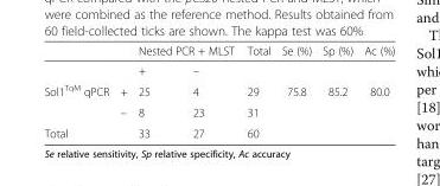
<table><thead><tr><td rowspan="2"></td><td rowspan="2"></td><td colspan="2">Nested PCR + MLST</td><td rowspan="2">Total</td><td rowspan="2">Se (%)</td><td rowspan="2">Sp (%)</td><td rowspan="2">Ac (%)</td></tr><tr><td>+</td><td>–</td></tr></thead><tbody><tr><td rowspan="2">Sol1<sup>TqM</sup> qPCR</td><td>+</td><td>25</td><td>4</td><td>29</td><td>75.8</td><td>85.2</td><td>80.0</td></tr><tr><td>–</td><td>8</td><td>23</td><td>31</td><td></td><td></td><td></td></tr><tr><td colspan="2">Total</td><td>33</td><td>27</td><td>60</td><td></td><td></td><td></td></tr></tbody></table>